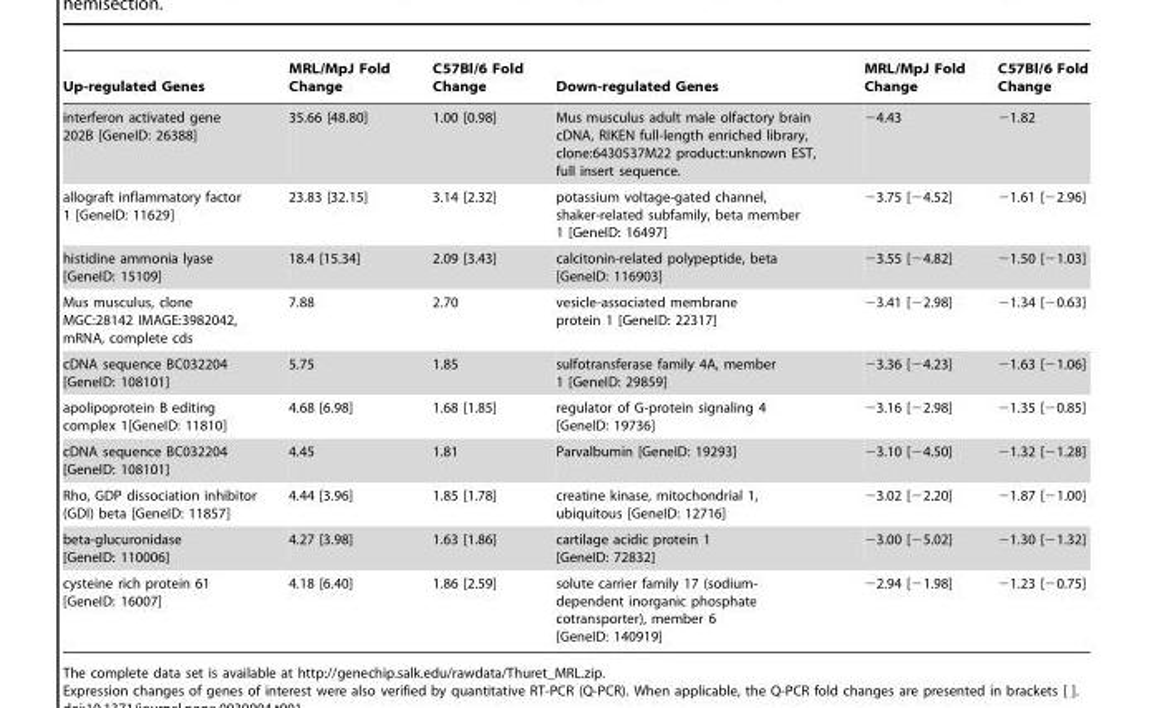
<table><thead><tr><td>Up-regulated Genes</td><td>MRL/MpJ Fold Change</td><td>C57Bl/6 Fold Change</td><td>Down-regulated Genes</td><td>MRL/MpJ Fold Change</td><td>C57Bl/6 Fold Change</td></tr></thead><tbody><tr><td>interferon activated gene 202B [GeneID: 26388]</td><td>35.66 [48.80]</td><td>1.00 [0.98]</td><td>Mus musculus adult male olfactory brain cDNA, RIKEN full-length enriched library, clone:6430537M22 product:unknown EST, full insert sequence.</td><td>−4.43</td><td>−1.82</td></tr><tr><td>allograft inflammatory factor 1 [GeneID: 11629]</td><td>23.83 [32.15]</td><td>3.14 [2.32]</td><td>potassium voltage-gated channel, shaker-related subfamily, beta member 1 [GeneID: 16497]</td><td>−3.75 [−4.52]</td><td>−1.61 [−2.96]</td></tr><tr><td>histidine ammonia lyase [GeneID: 15109]</td><td>18.4 [15.34]</td><td>2.09 [3.43]</td><td>calcitonin-related polypeptide, beta [GeneID: 116903]</td><td>−3.55 [−4.82]</td><td>−1.50 [−1.03]</td></tr><tr><td>Mus musculus, clone MGC:28142 IMAGE:3982042, mRNA, complete cds</td><td>7.88</td><td>2.70</td><td>vesicle-associated membrane protein 1 [GeneID: 22317]</td><td>−3.41 [−2.98]</td><td>−1.34 [−0.63]</td></tr><tr><td>cDNA sequence BC032204 [GeneID: 108101]</td><td>5.75</td><td>1.85</td><td>sulfotransferase family 4A, member 1 [GeneID: 29859]</td><td>−3.36 [−4.23]</td><td>−1.63 [−1.06]</td></tr><tr><td>apolipoprotein B editing complex 1[GeneID: 11810]</td><td>4.68 [6.98]</td><td>1.68 [1.85]</td><td>regulator of G-protein signaling 4 [GeneID: 19736]</td><td>−3.16 [−2.98]</td><td>−1.35 [−0.85]</td></tr><tr><td>cDNA sequence BC032204 [GeneID: 108101]</td><td>4.45</td><td>1.81</td><td>Parvalbumin [GeneID: 19293]</td><td>−3.10 [−4.50]</td><td>−1.32 [−1.28]</td></tr><tr><td>Rho, GDP dissociation inhibitor (GDI) beta [GeneID: 11857]</td><td>4.44 [3.96]</td><td>1.85 [1.78]</td><td>creatine kinase, mitochondrial 1, ubiquitous [GeneID: 12716]</td><td>−3.02 [−2.20]</td><td>−1.87 [−1.00]</td></tr><tr><td>beta-glucuronidase [GeneID: 110006]</td><td>4.27 [3.98]</td><td>1.63 [1.86]</td><td>cartilage acidic protein 1 [GeneID: 72832]</td><td>−3.00 [−5.02]</td><td>−1.30 [−1.32]</td></tr><tr><td>cysteine rich protein 61 [GeneID: 16007]</td><td>4.18 [6.40]</td><td>1.86 [2.59]</td><td>solute carrier family 17 (sodium- dependent inorganic phosphate cotransporter), member 6 [GeneID: 140919]</td><td>−2.94 [−1.98]</td><td>−1.23 [−0.75]</td></tr></tbody></table>